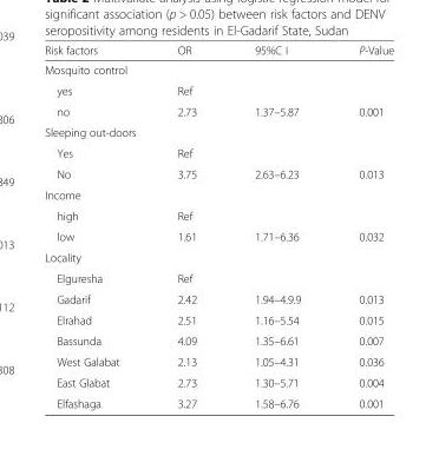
<table><thead><tr><td>Risk factors</td><td>OR</td><td>95%C I</td><td>P-Value</td></tr></thead><tbody><tr><td colspan="4">Mosquito control</td></tr><tr><td>yes</td><td>Ref</td><td></td><td></td></tr><tr><td>no</td><td>2.73</td><td>1.37–5.87</td><td>0.001</td></tr><tr><td colspan="4">Sleeping out-doors</td></tr><tr><td>Yes</td><td>Ref</td><td></td><td></td></tr><tr><td>No</td><td>3.75</td><td>2.63–6.23</td><td>0.013</td></tr><tr><td colspan="4">Income</td></tr><tr><td>high</td><td>Ref</td><td></td><td></td></tr><tr><td>low</td><td>1.61</td><td>1.71–6.36</td><td>0.032</td></tr><tr><td colspan="4">Locality</td></tr><tr><td>Elguresha</td><td>Ref</td><td></td><td></td></tr><tr><td>Gadarif</td><td>2.42</td><td>1.94–4.9.9</td><td>0.013</td></tr><tr><td>Elrahad</td><td>2.51</td><td>1.16–5.54</td><td>0.015</td></tr><tr><td>Bassunda</td><td>4.09</td><td>1.35–6.61</td><td>0.007</td></tr><tr><td>West Galabat</td><td>2.13</td><td>1.05–4.31</td><td>0.036</td></tr><tr><td>East Glabat</td><td>2.73</td><td>1.30–5.71</td><td>0.004</td></tr><tr><td>Elfashaga</td><td>3.27</td><td>1.58–6.76</td><td>0.001</td></tr></tbody></table>